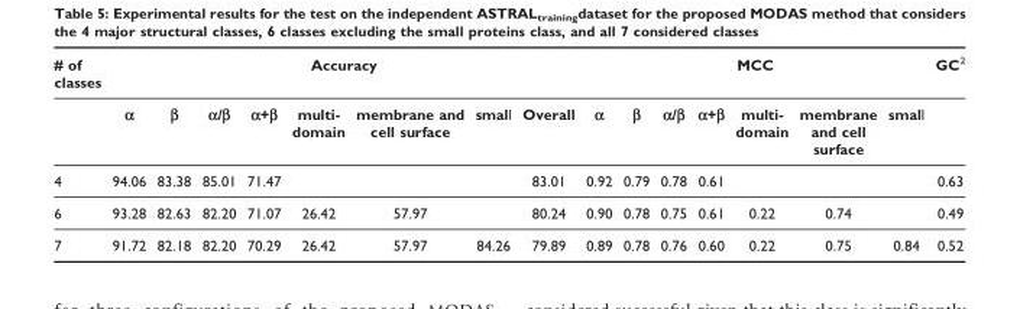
<table><thead><tr><td rowspan="2"># of classes</td><td colspan="8">Accuracy</td><td colspan="7">MCC</td><td rowspan="2">GC2</td></tr><tr><td>α</td><td>β</td><td>α/β</td><td>α+β</td><td>multi- domain</td><td>membrane and cell surface</td><td>small</td><td>Overall</td><td>α</td><td>β</td><td>α/β</td><td>α+β</td><td>multi- domain</td><td>membrane and cell surface</td><td>small</td></tr></thead><tbody><tr><td>4</td><td>94.06</td><td>83.38</td><td>85.01</td><td>71.47</td><td></td><td></td><td></td><td>83.01</td><td>0.92</td><td>0.79</td><td>0.78</td><td>0.61</td><td></td><td></td><td></td><td>0.63</td></tr><tr><td>6</td><td>93.28</td><td>82.63</td><td>82.20</td><td>71.07</td><td>26.42</td><td>57.97</td><td></td><td>80.24</td><td>0.90</td><td>0.78</td><td>0.75</td><td>0.61</td><td>0.22</td><td>0.74</td><td></td><td>0.49</td></tr><tr><td>7</td><td>91.72</td><td>82.18</td><td>82.20</td><td>70.29</td><td>26.42</td><td>57.97</td><td>84.26</td><td>79.89</td><td>0.89</td><td>0.78</td><td>0.76</td><td>0.60</td><td>0.22</td><td>0.75</td><td>0.84</td><td>0.52</td></tr></tbody></table>